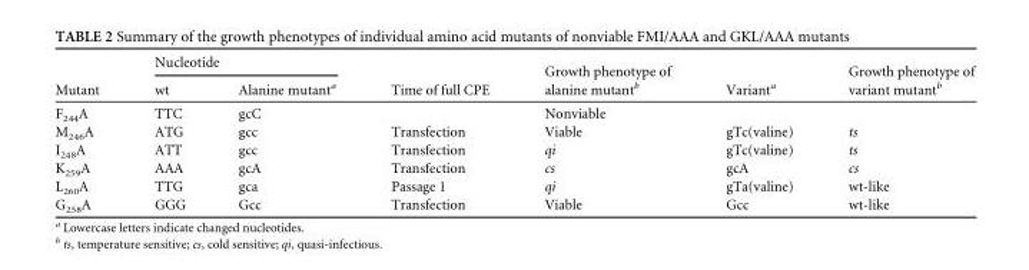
<table><thead><tr><td rowspan="2">Mutant</td><td colspan="2">Nucleotide</td><td rowspan="2">Time of full CPE</td><td rowspan="2">Growth phenotype of alanine mutant<sup>b</sup></td><td rowspan="2">Variant<sup>a</sup></td><td rowspan="2">Growth phenotype of variant mutant<sup>b</sup></td></tr><tr><td>wt</td><td>Alanine mutant<sup>a</sup></td></tr></thead><tbody><tr><td>F<sub>244</sub>A</td><td>TTC</td><td>gcC</td><td></td><td>Nonviable</td><td></td><td></td></tr><tr><td>M<sub>246</sub>A</td><td>ATG</td><td>gcc</td><td>Transfection</td><td>Viable</td><td>gTc(valine)</td><td>ts</td></tr><tr><td>I<sub>248</sub>A</td><td>ATT</td><td>gcc</td><td>Transfection</td><td>qi</td><td>gTc(valine)</td><td>ts</td></tr><tr><td>K<sub>259</sub>A</td><td>AAA</td><td>gcA</td><td>Transfection</td><td>cs</td><td>gcA</td><td>cs</td></tr><tr><td>L<sub>260</sub>A</td><td>TTG</td><td>gca</td><td>Passage 1</td><td>qi</td><td>gTa(valine)</td><td>wt-like</td></tr><tr><td>G<sub>258</sub>A</td><td>GGG</td><td>Gcc</td><td>Transfection</td><td>Viable</td><td>Gcc</td><td>wt-like</td></tr></tbody></table>